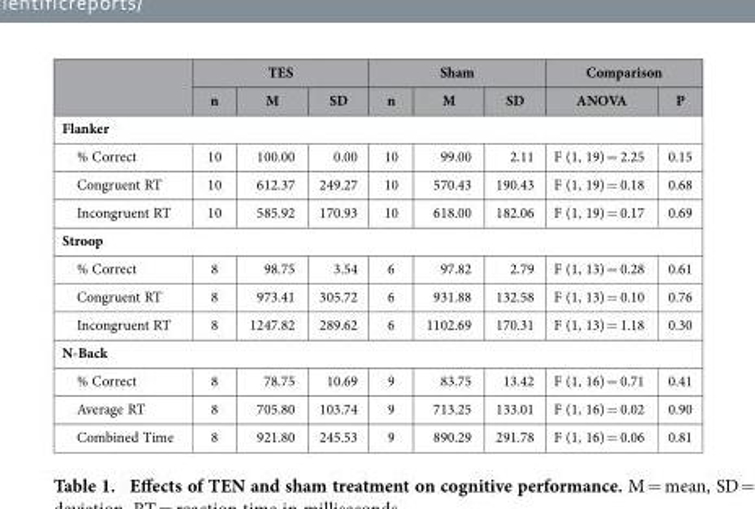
<table><thead><tr><td rowspan="2"></td><td colspan="3">TES</td><td colspan="3">Sham</td><td colspan="2">Comparison</td></tr><tr><td>n</td><td>M</td><td>SD</td><td>n</td><td>M</td><td>SD</td><td>ANOVA</td><td>P</td></tr></thead><tbody><tr><td colspan="9">Flanker</td></tr><tr><td>% Correct</td><td>10</td><td>100.00</td><td>0.00</td><td>10</td><td>99.00</td><td>2.11</td><td>F (1, 19) = 2.25</td><td>0.15</td></tr><tr><td>Congruent RT</td><td>10</td><td>612.37</td><td>249.27</td><td>10</td><td>570.43</td><td>190.43</td><td>F (1, 19) = 0.18</td><td>0.68</td></tr><tr><td>Incongruent RT</td><td>10</td><td>585.92</td><td>170.93</td><td>10</td><td>618.00</td><td>182.06</td><td>F (1, 19) = 0.17</td><td>0.69</td></tr><tr><td colspan="9">Stroop</td></tr><tr><td>% Correct</td><td>8</td><td>98.75</td><td>3.54</td><td>6</td><td>97.82</td><td>2.79</td><td>F (1, 13) = 0.28</td><td>0.61</td></tr><tr><td>Congruent RT</td><td>8</td><td>973.41</td><td>305.72</td><td>6</td><td>931.88</td><td>132.58</td><td>F (1, 13) = 0.10</td><td>0.76</td></tr><tr><td>Incongruent RT</td><td>8</td><td>1247.82</td><td>289.62</td><td>6</td><td>1102.69</td><td>170.31</td><td>F (1, 13) = 1.18</td><td>0.30</td></tr><tr><td colspan="9">N-Back</td></tr><tr><td>% Correct</td><td>8</td><td>78.75</td><td>10.69</td><td>9</td><td>83.75</td><td>13.42</td><td>F (1, 16) = 0.71</td><td>0.41</td></tr><tr><td>Average RT</td><td>8</td><td>705.80</td><td>103.74</td><td>9</td><td>713.25</td><td>133.01</td><td>F (1, 16) = 0.02</td><td>0.90</td></tr><tr><td>Combined Time</td><td>8</td><td>921.80</td><td>245.53</td><td>9</td><td>890.29</td><td>291.78</td><td>F (1, 16) = 0.06</td><td>0.81</td></tr></tbody></table>